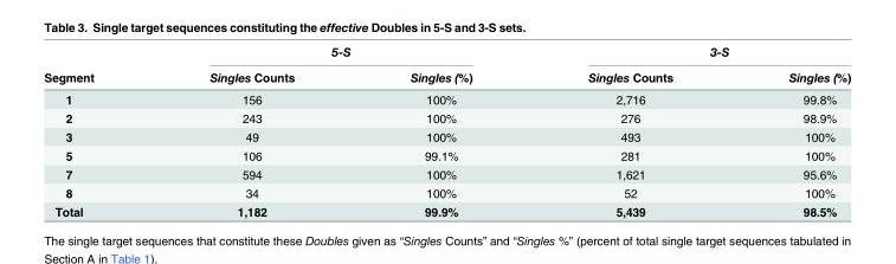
<table><thead><tr><td rowspan="2">Segment</td><td colspan="2">5-S</td><td colspan="2">3-S</td></tr><tr><td>Singles Counts</td><td>Singles (%)</td><td>Singles Counts</td><td>Singles (%)</td></tr></thead><tbody><tr><td>1</td><td>156</td><td>100%</td><td>2,716</td><td>99.8%</td></tr><tr><td>2</td><td>243</td><td>100%</td><td>276</td><td>98.9%</td></tr><tr><td>3</td><td>49</td><td>100%</td><td>493</td><td>100%</td></tr><tr><td>5</td><td>106</td><td>99.1%</td><td>281</td><td>100%</td></tr><tr><td>7</td><td>594</td><td>100%</td><td>1,621</td><td>95.6%</td></tr><tr><td>8</td><td>34</td><td>100%</td><td>52</td><td>100%</td></tr><tr><td>Total</td><td>1,182</td><td>99.9%</td><td>5,439</td><td>98.5%</td></tr></tbody></table>